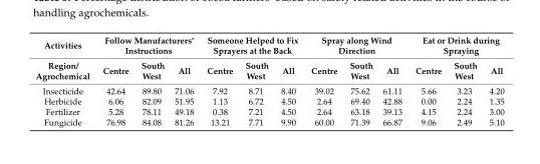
<table><thead><tr><td rowspan="2">Activities Region/ Agrochemical</td><td colspan="3">Follow Manufacturers’ Instructions</td><td colspan="3">Someone Helped to Fix Sprayers at the Back</td><td colspan="3">Spray along Wind Direction</td><td colspan="3">Eat or Drink during Spraying</td></tr><tr><td>Centre</td><td>South West</td><td>All</td><td>Centre</td><td>South West</td><td>All</td><td>Centre</td><td>South West</td><td>All</td><td>Centre</td><td>South West</td><td>All</td></tr></thead><tbody><tr><td>Insecticide</td><td>42.64</td><td>89.80</td><td>71.06</td><td>7.92</td><td>8.71</td><td>8.40</td><td>39.02</td><td>75.62</td><td>61.11</td><td>5.66</td><td>3.23</td><td>4.20</td></tr><tr><td>Herbicide</td><td>6.06</td><td>82.09</td><td>51.95</td><td>1.13</td><td>6.72</td><td>4.50</td><td>2.64</td><td>69.40</td><td>42.88</td><td>0.00</td><td>2.24</td><td>1.35</td></tr><tr><td>Fertilizer</td><td>5.28</td><td>78.11</td><td>49.18</td><td>0.38</td><td>7.21</td><td>4.50</td><td>2.64</td><td>63.18</td><td>39.13</td><td>4.15</td><td>2.24</td><td>3.00</td></tr><tr><td>Fungicide</td><td>76.98</td><td>84.08</td><td>81.26</td><td>13.21</td><td>7.71</td><td>9.90</td><td>60.00</td><td>71.39</td><td>66.87</td><td>9.06</td><td>2.49</td><td>5.10</td></tr></tbody></table>